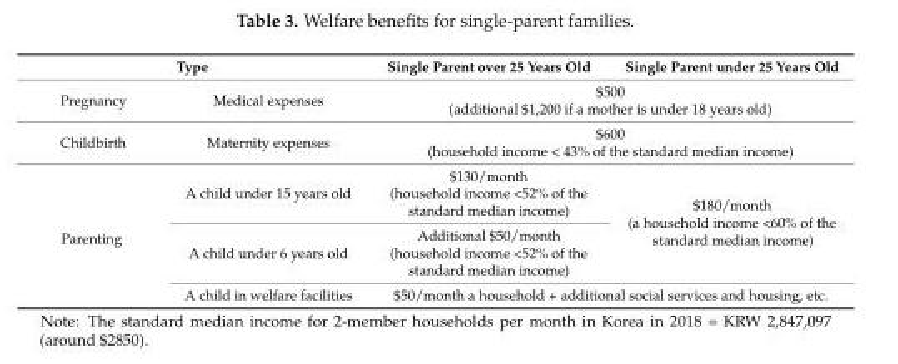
<table><thead><tr><td colspan="2">Type</td><td>Single Parent over 25 Years Old</td><td>Single Parent under 25 Years Old</td></tr><tr><td>Pregnancy</td><td>Medical expenses</td><td colspan="2">$500 (additional $1,200 if a mother is under 18 years old)</td></tr></thead><tbody><tr><td>Childbirth</td><td>Maternity expenses</td><td colspan="2">$600 (household income &lt; 43% of the standard median income)</td></tr><tr><td rowspan="3">Parenting</td><td>A child under 15 years old</td><td>$130/month (household income &lt;52% of the standard median income)</td><td rowspan="2">$180/month (a household income &lt;60% of the standard median income)</td></tr><tr><td>A child under 6 years old</td><td>Additional $50/month (household income &lt;52% of the standard median income)</td></tr><tr><td>A child in welfare facilities</td><td colspan="2">$50/month a household + additional social services and housing, etc.</td></tr></tbody></table>